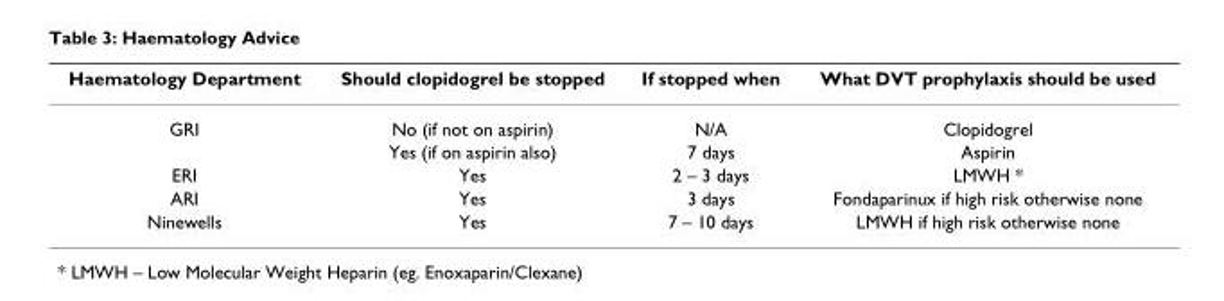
<table><thead><tr><td>Haematology Department</td><td>Should clopidogrel be stopped</td><td>If stopped when</td><td>What DVT prophylaxis should be used</td></tr></thead><tbody><tr><td rowspan="2">GRI</td><td>No (if not on aspirin)</td><td>N/A</td><td>Clopidogrel</td></tr><tr><td>Yes (if on aspirin also)</td><td>7 days</td><td>Aspirin</td></tr><tr><td>ERI</td><td>Yes</td><td>2 – 3 days</td><td>LMWH *</td></tr><tr><td>ARI</td><td>Yes</td><td>3 days</td><td>Fondaparinux if high risk otherwise none</td></tr><tr><td>Ninewells</td><td>Yes</td><td>7 – 10 days</td><td>LMWH if high risk otherwise none</td></tr></tbody></table>